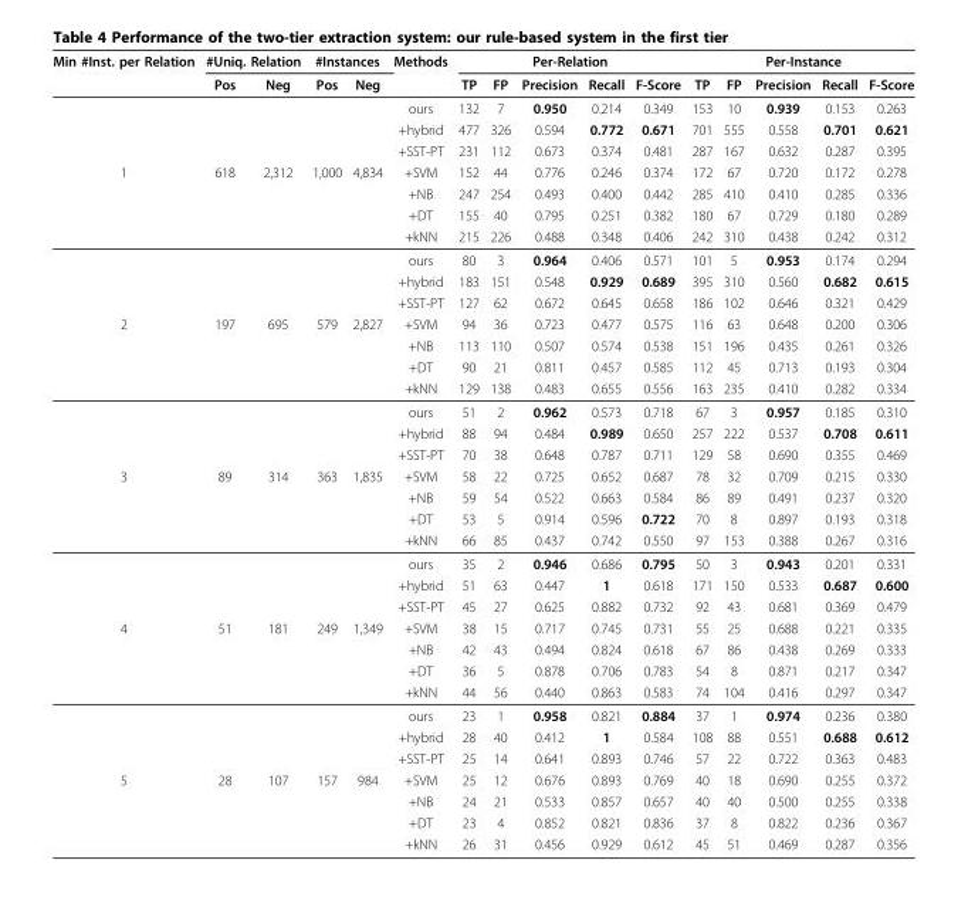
<table><thead><tr><td rowspan="2">Min #Inst. per Relation</td><td colspan="2">#Uniq. Relation</td><td colspan="2">#Instances</td><td rowspan="2">Methods</td><td colspan="5">Per-Relation</td><td colspan="5">Per-Instance</td></tr><tr><td>Pos</td><td>Neg</td><td>Pos</td><td>Neg</td><td>TP</td><td>FP</td><td>Precision</td><td>Recall</td><td>F-Score</td><td>TP</td><td>FP</td><td>Precision</td><td>Recall</td><td>F-Score</td></tr></thead><tbody><tr><td></td><td></td><td></td><td></td><td></td><td>ours</td><td>132</td><td>7</td><td>0.950</td><td>0.214</td><td>0.349</td><td>153</td><td>10</td><td>0.939</td><td>0.153</td><td>0.263</td></tr><tr><td></td><td></td><td></td><td></td><td></td><td>+hybrid</td><td>477</td><td>326</td><td>0.594</td><td>0.772</td><td>0.671</td><td>701</td><td>555</td><td>0.558</td><td>0.701</td><td>0.621</td></tr><tr><td></td><td></td><td></td><td></td><td></td><td>+SST-PT</td><td>231</td><td>112</td><td>0.673</td><td>0.374</td><td>0.481</td><td>287</td><td>167</td><td>0.632</td><td>0.287</td><td>0.395</td></tr><tr><td rowspan="7">1</td><td>618</td><td>2,312</td><td>1,000</td><td>4,834</td><td>+SVM</td><td>152</td><td>44</td><td>0.776</td><td>0.246</td><td>0.374</td><td>172</td><td>67</td><td>0.720</td><td>0.172</td><td>0.278</td></tr><tr><td></td><td></td><td></td><td></td><td>+NB</td><td>247</td><td>254</td><td>0.493</td><td>0.400</td><td>0.442</td><td>285</td><td>410</td><td>0.410</td><td>0.285</td><td>0.336</td></tr><tr><td></td><td></td><td></td><td></td><td>+DT</td><td>155</td><td>40</td><td>0.795</td><td>0.251</td><td>0.382</td><td>180</td><td>67</td><td>0.729</td><td>0.180</td><td>0.289</td></tr><tr><td></td><td></td><td></td><td></td><td>+kNN</td><td>215</td><td>226</td><td>0.488</td><td>0.348</td><td>0.406</td><td>242</td><td>310</td><td>0.438</td><td>0.242</td><td>0.312</td></tr><tr><td></td><td></td><td></td><td></td><td>ours</td><td>80</td><td>3</td><td>0.964</td><td>0.406</td><td>0.571</td><td>101</td><td>5</td><td>0.953</td><td>0.174</td><td>0.294</td></tr><tr><td></td><td></td><td></td><td></td><td>+hybrid</td><td>183</td><td>151</td><td>0.548</td><td>0.929</td><td>0.689</td><td>395</td><td>310</td><td>0.560</td><td>0.682</td><td>0.615</td></tr><tr><td></td><td></td><td></td><td></td><td>+SST-PT</td><td>127</td><td>62</td><td>0.672</td><td>0.645</td><td>0.658</td><td>186</td><td>102</td><td>0.646</td><td>0.321</td><td>0.429</td></tr><tr><td rowspan="7">2</td><td>197</td><td>695</td><td>579</td><td>2,827</td><td>+SVM</td><td>94</td><td>36</td><td>0.723</td><td>0.477</td><td>0.575</td><td>116</td><td>63</td><td>0.648</td><td>0.200</td><td>0.306</td></tr><tr><td></td><td></td><td></td><td></td><td>+NB</td><td>113</td><td>110</td><td>0.507</td><td>0.574</td><td>0.538</td><td>151</td><td>196</td><td>0.435</td><td>0.261</td><td>0.326</td></tr><tr><td></td><td></td><td></td><td></td><td>+DT</td><td>90</td><td>21</td><td>0.811</td><td>0.457</td><td>0.585</td><td>112</td><td>45</td><td>0.713</td><td>0.193</td><td>0.304</td></tr><tr><td></td><td></td><td></td><td></td><td>+kNN</td><td>129</td><td>138</td><td>0.483</td><td>0.655</td><td>0.556</td><td>163</td><td>235</td><td>0.410</td><td>0.282</td><td>0.334</td></tr><tr><td></td><td></td><td></td><td></td><td>ours</td><td>51</td><td>2</td><td>0.962</td><td>0.573</td><td>0.718</td><td>67</td><td>3</td><td>0.957</td><td>0.185</td><td>0.310</td></tr><tr><td></td><td></td><td></td><td></td><td>+hybrid</td><td>88</td><td>94</td><td>0.484</td><td>0.989</td><td>0.650</td><td>257</td><td>222</td><td>0.537</td><td>0.708</td><td>0.611</td></tr><tr><td></td><td></td><td></td><td></td><td>+SST-PT</td><td>70</td><td>38</td><td>0.648</td><td>0.787</td><td>0.711</td><td>129</td><td>58</td><td>0.690</td><td>0.355</td><td>0.469</td></tr><tr><td rowspan="7">3</td><td>89</td><td>314</td><td>363</td><td>1,835</td><td>+SVM</td><td>58</td><td>22</td><td>0.725</td><td>0.652</td><td>0.687</td><td>78</td><td>32</td><td>0.709</td><td>0.215</td><td>0.330</td></tr><tr><td></td><td></td><td></td><td></td><td>+NB</td><td>59</td><td>54</td><td>0.522</td><td>0.663</td><td>0.584</td><td>86</td><td>89</td><td>0.491</td><td>0.237</td><td>0.320</td></tr><tr><td></td><td></td><td></td><td></td><td>+DT</td><td>53</td><td>5</td><td>0.914</td><td>0.596</td><td>0.722</td><td>70</td><td>8</td><td>0.897</td><td>0.193</td><td>0.318</td></tr><tr><td></td><td></td><td></td><td></td><td>+kNN</td><td>66</td><td>85</td><td>0.437</td><td>0.742</td><td>0.550</td><td>97</td><td>153</td><td>0.388</td><td>0.267</td><td>0.316</td></tr><tr><td></td><td></td><td></td><td></td><td>ours</td><td>35</td><td>2</td><td>0.946</td><td>0.686</td><td>0.795</td><td>50</td><td>3</td><td>0.943</td><td>0.201</td><td>0.331</td></tr><tr><td></td><td></td><td></td><td></td><td>+hybrid</td><td>51</td><td>63</td><td>0.447</td><td>1</td><td>0.618</td><td>171</td><td>150</td><td>0.533</td><td>0.687</td><td>0.600</td></tr><tr><td></td><td></td><td></td><td></td><td>+SST-PT</td><td>45</td><td>27</td><td>0.625</td><td>0.882</td><td>0.732</td><td>92</td><td>43</td><td>0.681</td><td>0.369</td><td>0.479</td></tr><tr><td rowspan="7">4</td><td>51</td><td>181</td><td>249</td><td>1,349</td><td>+SVM</td><td>38</td><td>15</td><td>0.717</td><td>0.745</td><td>0.731</td><td>55</td><td>25</td><td>0.688</td><td>0.221</td><td>0.335</td></tr><tr><td></td><td></td><td></td><td></td><td>+NB</td><td>42</td><td>43</td><td>0.494</td><td>0.824</td><td>0.618</td><td>67</td><td>86</td><td>0.438</td><td>0.269</td><td>0.333</td></tr><tr><td></td><td></td><td></td><td></td><td>+DT</td><td>36</td><td>5</td><td>0.878</td><td>0.706</td><td>0.783</td><td>54</td><td>8</td><td>0.871</td><td>0.217</td><td>0.347</td></tr><tr><td></td><td></td><td></td><td></td><td>+kNN</td><td>44</td><td>56</td><td>0.440</td><td>0.863</td><td>0.583</td><td>74</td><td>104</td><td>0.416</td><td>0.297</td><td>0.347</td></tr><tr><td></td><td></td><td></td><td></td><td>ours</td><td>23</td><td>1</td><td>0.958</td><td>0.821</td><td>0.884</td><td>37</td><td>1</td><td>0.974</td><td>0.236</td><td>0.380</td></tr><tr><td></td><td></td><td></td><td></td><td>+hybrid</td><td>28</td><td>40</td><td>0.412</td><td>1</td><td>0.584</td><td>108</td><td>88</td><td>0.551</td><td>0.688</td><td>0.612</td></tr><tr><td></td><td></td><td></td><td></td><td>+SST-PT</td><td>25</td><td>14</td><td>0.641</td><td>0.893</td><td>0.746</td><td>57</td><td>22</td><td>0.722</td><td>0.363</td><td>0.483</td></tr><tr><td rowspan="4">5</td><td>28</td><td>107</td><td>157</td><td>984</td><td>+SVM</td><td>25</td><td>12</td><td>0.676</td><td>0.893</td><td>0.769</td><td>40</td><td>18</td><td>0.690</td><td>0.255</td><td>0.372</td></tr><tr><td></td><td></td><td></td><td></td><td>+NB</td><td>24</td><td>21</td><td>0.533</td><td>0.857</td><td>0.657</td><td>40</td><td>40</td><td>0.500</td><td>0.255</td><td>0.338</td></tr><tr><td></td><td></td><td></td><td></td><td>+DT</td><td>23</td><td>4</td><td>0.852</td><td>0.821</td><td>0.836</td><td>37</td><td>8</td><td>0.822</td><td>0.236</td><td>0.367</td></tr><tr><td></td><td></td><td></td><td></td><td>+kNN</td><td>26</td><td>31</td><td>0.456</td><td>0.929</td><td>0.612</td><td>45</td><td>51</td><td>0.469</td><td>0.287</td><td>0.356</td></tr></tbody></table>